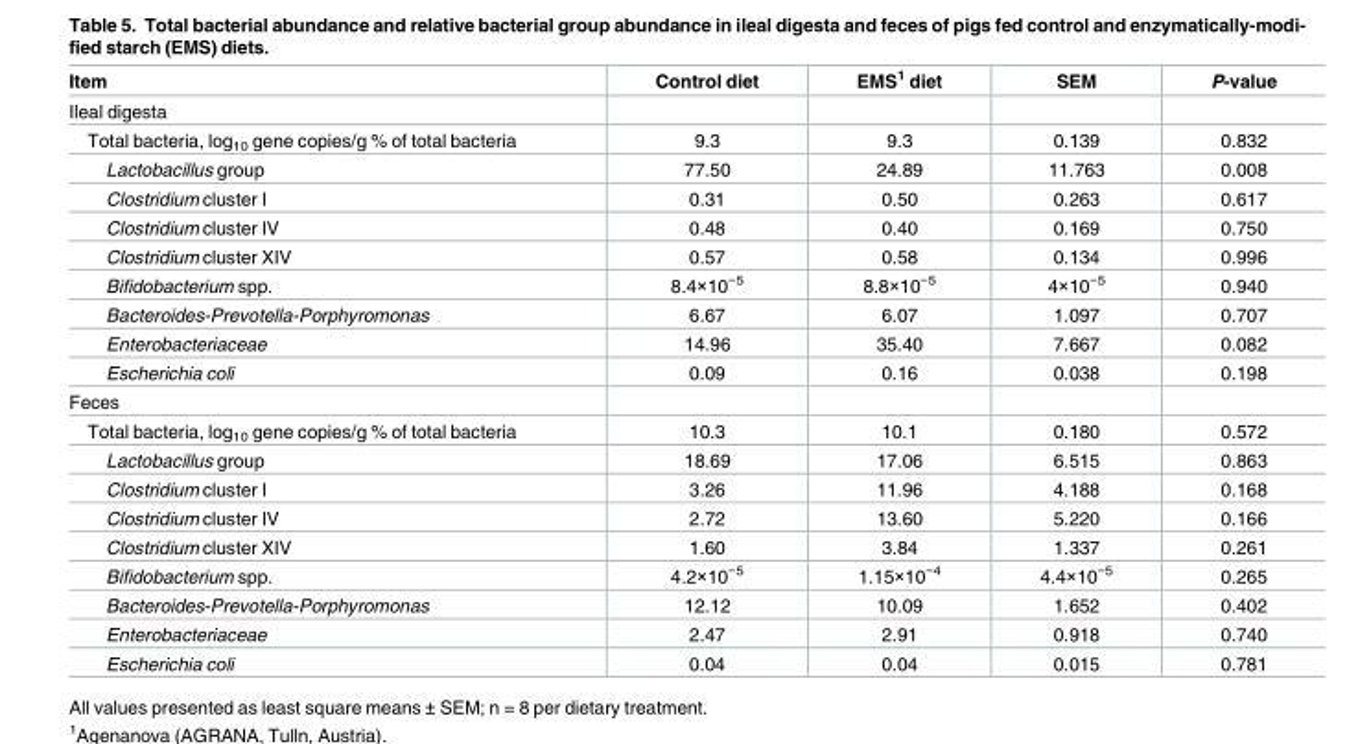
<table><thead><tr><td>Item</td><td>Control diet</td><td>EMS<sup>1</sup> diet</td><td>SEM</td><td>P-value</td></tr></thead><tbody><tr><td colspan="5">Ileal digesta</td></tr><tr><td>Total bacteria, log<sub>10</sub> gene copies/g % of total bacteria</td><td>9.3</td><td>9.3</td><td>0.139</td><td>0.832</td></tr><tr><td>Lactobacillus group</td><td>77.50</td><td>24.89</td><td>11.763</td><td>0.008</td></tr><tr><td>Clostridium cluster I</td><td>0.31</td><td>0.50</td><td>0.263</td><td>0.617</td></tr><tr><td>Clostridium cluster IV</td><td>0.48</td><td>0.40</td><td>0.169</td><td>0.750</td></tr><tr><td>Clostridium cluster XIV</td><td>0.57</td><td>0.58</td><td>0.134</td><td>0.996</td></tr><tr><td>Bifidobacterium spp.</td><td>8.4×10<sup>−5</sup></td><td>8.8×10<sup>−5</sup></td><td>4×10<sup>−5</sup></td><td>0.940</td></tr><tr><td>Bacteroides-Prevotella-Porphyromonas</td><td>6.67</td><td>6.07</td><td>1.097</td><td>0.707</td></tr><tr><td>Enterobacteriaceae</td><td>14.96</td><td>35.40</td><td>7.667</td><td>0.082</td></tr><tr><td>Escherichia coli</td><td>0.09</td><td>0.16</td><td>0.038</td><td>0.198</td></tr><tr><td colspan="5">Feces</td></tr><tr><td>Total bacteria, log<sub>10</sub> gene copies/g % of total bacteria</td><td>10.3</td><td>10.1</td><td>0.180</td><td>0.572</td></tr><tr><td>Lactobacillus group</td><td>18.69</td><td>17.06</td><td>6.515</td><td>0.863</td></tr><tr><td>Clostridium cluster I</td><td>3.26</td><td>11.96</td><td>4.188</td><td>0.168</td></tr><tr><td>Clostridium cluster IV</td><td>2.72</td><td>13.60</td><td>5.220</td><td>0.166</td></tr><tr><td>Clostridium cluster XIV</td><td>1.60</td><td>3.84</td><td>1.337</td><td>0.261</td></tr><tr><td>Bifidobacterium spp.</td><td>4.2×10<sup>−5</sup></td><td>1.15×10<sup>−4</sup></td><td>4.4×10<sup>−5</sup></td><td>0.265</td></tr><tr><td>Bacteroides-Prevotella-Porphyromonas</td><td>12.12</td><td>10.09</td><td>1.652</td><td>0.402</td></tr><tr><td>Enterobacteriaceae</td><td>2.47</td><td>2.91</td><td>0.918</td><td>0.740</td></tr><tr><td>Escherichia coli</td><td>0.04</td><td>0.04</td><td>0.015</td><td>0.781</td></tr></tbody></table>